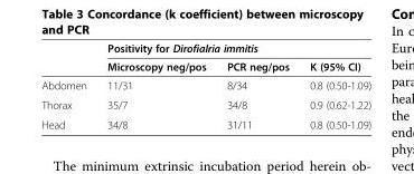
<table><thead><tr><td rowspan="2"></td><td colspan="3">Positivity for Dirofialria immitis</td></tr><tr><td>Microscopy neg/pos</td><td>PCR neg/pos</td><td>K (95% CI)</td></tr></thead><tbody><tr><td>Abdomen</td><td>11/31</td><td>8/34</td><td>0.8 (0.50-1.09)</td></tr><tr><td>Thorax</td><td>35/7</td><td>34/8</td><td>0.9 (0.62-1.22)</td></tr><tr><td>Head</td><td>34/8</td><td>31/11</td><td>0.8 (0.50-1.09)</td></tr></tbody></table>